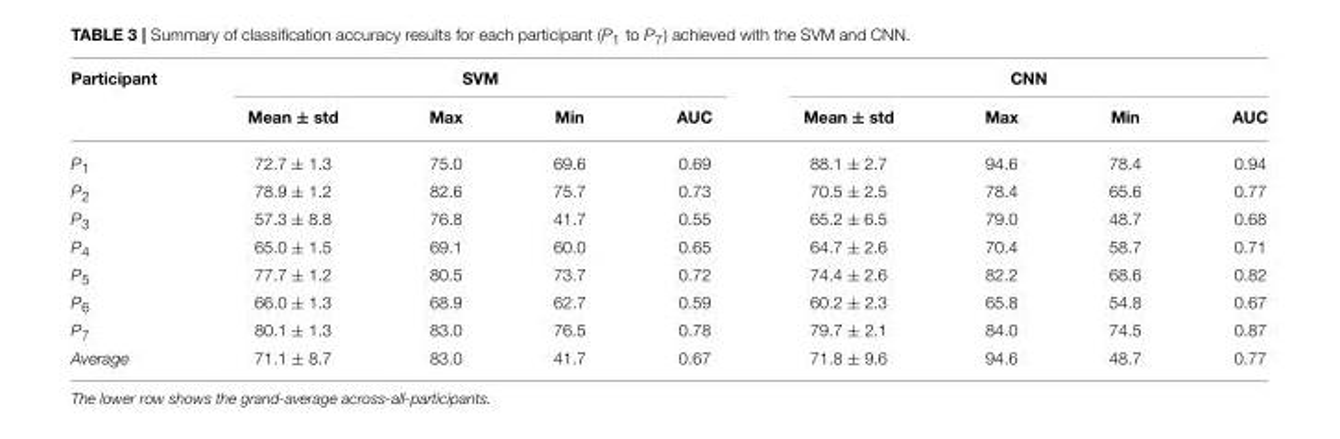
<table><thead><tr><td rowspan="2">Participant</td><td colspan="4">SVM</td><td colspan="4">CNN</td></tr><tr><td>Mean ± std</td><td>Max</td><td>Min</td><td>AUC</td><td>Mean ± std</td><td>Max</td><td>Min</td><td>AUC</td></tr></thead><tbody><tr><td>P<sub>1</sub></td><td>72.7 ± 1.3</td><td>75.0</td><td>69.6</td><td>0.69</td><td>88.1 ± 2.7</td><td>94.6</td><td>78.4</td><td>0.94</td></tr><tr><td>P<sub>2</sub></td><td>78.9 ± 1.2</td><td>82.6</td><td>75.7</td><td>0.73</td><td>70.5 ± 2.5</td><td>78.4</td><td>65.6</td><td>0.77</td></tr><tr><td>P<sub>3</sub></td><td>57.3 ± 8.8</td><td>76.8</td><td>41.7</td><td>0.55</td><td>65.2 ± 6.5</td><td>79.0</td><td>48.7</td><td>0.68</td></tr><tr><td>P<sub>4</sub></td><td>65.0 ± 1.5</td><td>69.1</td><td>60.0</td><td>0.65</td><td>64.7 ± 2.6</td><td>70.4</td><td>58.7</td><td>0.71</td></tr><tr><td>P<sub>5</sub></td><td>77.7 ± 1.2</td><td>80.5</td><td>73.7</td><td>0.72</td><td>74.4 ± 2.6</td><td>82.2</td><td>68.6</td><td>0.82</td></tr><tr><td>P<sub>6</sub></td><td>66.0 ± 1.3</td><td>68.9</td><td>62.7</td><td>0.59</td><td>60.2 ± 2.3</td><td>65.8</td><td>54.8</td><td>0.67</td></tr><tr><td>P<sub>7</sub></td><td>80.1 ± 1.3</td><td>83.0</td><td>76.5</td><td>0.78</td><td>79.7 ± 2.1</td><td>84.0</td><td>74.5</td><td>0.87</td></tr><tr><td>Average</td><td>71.1 ± 8.7</td><td>83.0</td><td>41.7</td><td>0.67</td><td>71.8 ± 9.6</td><td>94.6</td><td>48.7</td><td>0.77</td></tr></tbody></table>